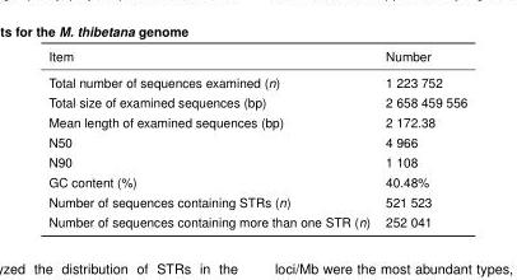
<table><thead><tr><td>Item</td><td>Number</td></tr></thead><tbody><tr><td>Total number of sequences examined (n)</td><td>1 223 752</td></tr><tr><td>Total size of examined sequences (bp)</td><td>2 658 459 556</td></tr><tr><td>Mean length of examined sequences (bp)</td><td>2 172.38</td></tr><tr><td>N50</td><td>4 966</td></tr><tr><td>N90</td><td>1 108</td></tr><tr><td>GC content (%)</td><td>40.48%</td></tr><tr><td>Number of sequences containing STRs (n)</td><td>521 523</td></tr><tr><td>Number of sequences containing more than one STR (n)</td><td>252 041</td></tr></tbody></table>